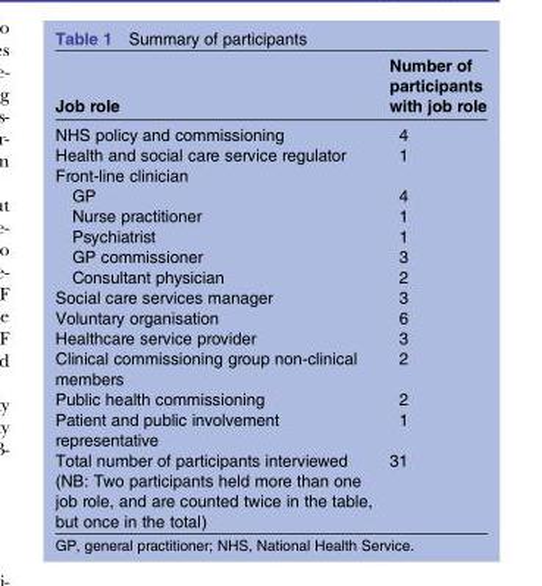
<table><thead><tr><td>Job role</td><td>Number of participants with job role</td></tr></thead><tbody><tr><td>NHS policy and commissioning</td><td>4</td></tr><tr><td>Health and social care service regulator</td><td>1</td></tr><tr><td colspan="2">Front-line clinician</td></tr><tr><td>GP</td><td>4</td></tr><tr><td>Nurse practitioner</td><td>1</td></tr><tr><td>Psychiatrist</td><td>1</td></tr><tr><td>GP commissioner</td><td>3</td></tr><tr><td>Consultant physician</td><td>2</td></tr><tr><td>Social care services manager</td><td>3</td></tr><tr><td>Voluntary organisation</td><td>6</td></tr><tr><td>Healthcare service provider</td><td>3</td></tr><tr><td>Clinical commissioning group non-clinical members</td><td>2</td></tr><tr><td>Public health commissioning</td><td>2</td></tr><tr><td>Patient and public involvement representative</td><td>1</td></tr><tr><td>Total number of participants interviewed (NB: Two participants held more than one job role, and are counted twice in the table, but once in the total)</td><td>31</td></tr></tbody></table>